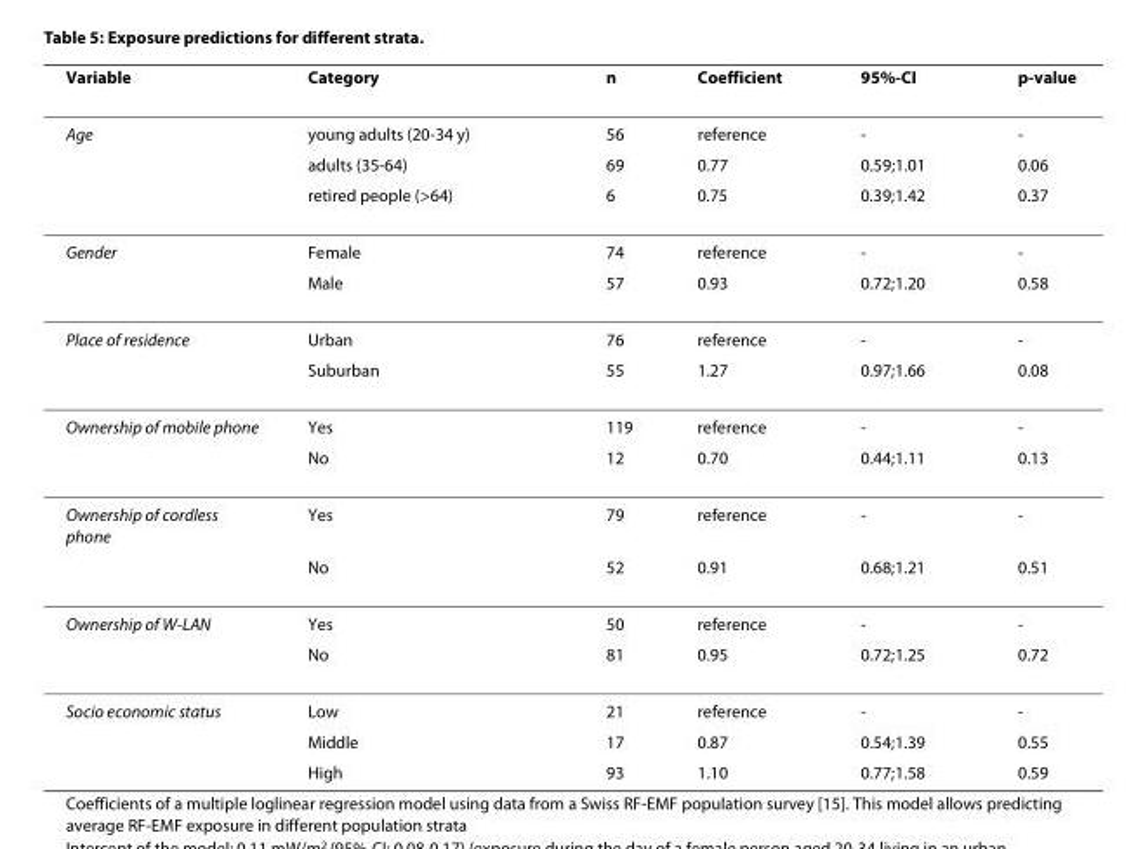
<table><thead><tr><td>Variable</td><td>Category</td><td>n</td><td>Coefficient</td><td>95%-CI</td><td>p-value</td></tr></thead><tbody><tr><td rowspan="3">Age</td><td>young adults (20-34 y)</td><td>56</td><td>reference</td><td>-</td><td>-</td></tr><tr><td>adults (35-64)</td><td>69</td><td>0.77</td><td>0.59;1.01</td><td>0.06</td></tr><tr><td>retired people (&gt;64)</td><td>6</td><td>0.75</td><td>0.39;1.42</td><td>0.37</td></tr><tr><td rowspan="2">Gender</td><td>Female</td><td>74</td><td>reference</td><td>-</td><td>-</td></tr><tr><td>Male</td><td>57</td><td>0.93</td><td>0.72;1.20</td><td>0.58</td></tr><tr><td rowspan="2">Place of residence</td><td>Urban</td><td>76</td><td>reference</td><td>-</td><td>-</td></tr><tr><td>Suburban</td><td>55</td><td>1.27</td><td>0.97;1.66</td><td>0.08</td></tr><tr><td rowspan="2">Ownership of mobile phone</td><td>Yes</td><td>119</td><td>reference</td><td>-</td><td>-</td></tr><tr><td>No</td><td>12</td><td>0.70</td><td>0.44;1.11</td><td>0.13</td></tr><tr><td rowspan="2">Ownership of cordless phone</td><td>Yes</td><td>79</td><td>reference</td><td>-</td><td>-</td></tr><tr><td>No</td><td>52</td><td>0.91</td><td>0.68;1.21</td><td>0.51</td></tr><tr><td rowspan="2">Ownership of W-LAN</td><td>Yes</td><td>50</td><td>reference</td><td>-</td><td>-</td></tr><tr><td>No</td><td>81</td><td>0.95</td><td>0.72;1.25</td><td>0.72</td></tr><tr><td rowspan="3">Socio economic status</td><td>Low</td><td>21</td><td>reference</td><td>-</td><td>-</td></tr><tr><td>Middle</td><td>17</td><td>0.87</td><td>0.54;1.39</td><td>0.55</td></tr><tr><td>High</td><td>93</td><td>1.10</td><td>0.77;1.58</td><td>0.59</td></tr></tbody></table>